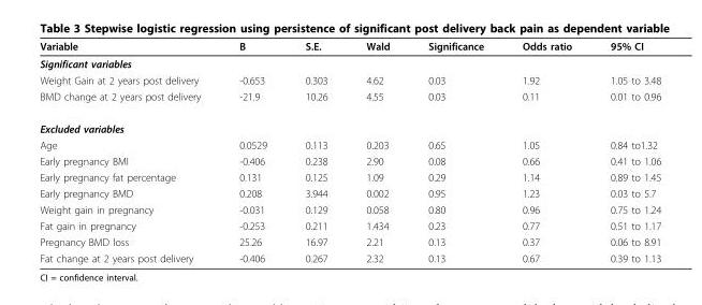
<table><thead><tr><td>Variable</td><td>B</td><td>S.E.</td><td>Wald</td><td>Significance</td><td>Odds ratio</td><td>95% CI</td></tr></thead><tbody><tr><td colspan="7">Significant variables</td></tr><tr><td>Weight Gain at 2 years post delivery</td><td>-0.653</td><td>0.303</td><td>4.62</td><td>0.03</td><td>1.92</td><td>1.05 to 3.48</td></tr><tr><td>BMD change at 2 years post delivery</td><td>-21.9</td><td>10.26</td><td>4.55</td><td>0.03</td><td>0.11</td><td>0.01 to 0.96</td></tr><tr><td colspan="7">Excluded variables</td></tr><tr><td>Age</td><td>0.0529</td><td>0.113</td><td>0.203</td><td>0.65</td><td>1.05</td><td>0.84 to1.32</td></tr><tr><td>Early pregnancy BMI</td><td>-0.406</td><td>0.238</td><td>2.90</td><td>0.08</td><td>0.66</td><td>0.41 to 1.06</td></tr><tr><td>Early pregnancy fat percentage</td><td>0.131</td><td>0.125</td><td>1.09</td><td>0.29</td><td>1.14</td><td>0.89 to 1.45</td></tr><tr><td>Early pregnancy BMD</td><td>0.208</td><td>3.944</td><td>0.002</td><td>0.95</td><td>1.23</td><td>0.03 to 5.7</td></tr><tr><td>Weight gain in pregnancy</td><td>-0.031</td><td>0.129</td><td>0.058</td><td>0.80</td><td>0.96</td><td>0.75 to 1.24</td></tr><tr><td>Fat gain in pregnancy</td><td>-0.253</td><td>0.211</td><td>1.434</td><td>0.23</td><td>0.77</td><td>0.51 to 1.17</td></tr><tr><td>Pregnancy BMD loss</td><td>25.26</td><td>16.97</td><td>2.21</td><td>0.13</td><td>0.37</td><td>0.06 to 8.91</td></tr><tr><td>Fat change at 2 years post delivery</td><td>-0.406</td><td>0.267</td><td>2.32</td><td>0.13</td><td>0.67</td><td>0.39 to 1.13</td></tr></tbody></table>